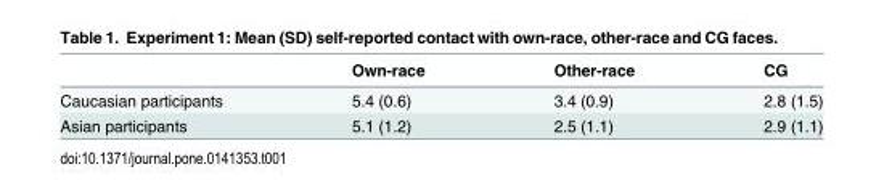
<table><thead><tr><td></td><td>Own-race</td><td>Other-race</td><td>CG</td></tr></thead><tbody><tr><td>Caucasian participants</td><td>5.4 (0.6)</td><td>3.4 (0.9)</td><td>2.8 (1.5)</td></tr><tr><td>Asian participants</td><td>5.1 (1.2)</td><td>2.5 (1.1)</td><td>2.9 (1.1)</td></tr></tbody></table>